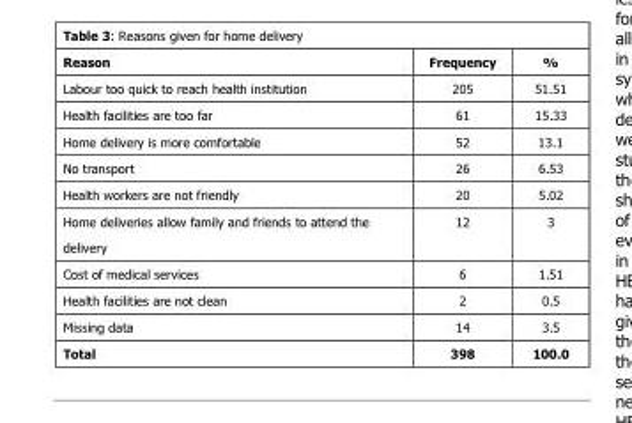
<table><thead><tr><td>Reason</td><td>Frequency</td><td>%</td></tr></thead><tbody><tr><td>Labour too quick to reach health institution</td><td>205</td><td>51.51</td></tr><tr><td>Health facilities are too far</td><td>61</td><td>15.33</td></tr><tr><td>Home delivery is more comfortable</td><td>52</td><td>13.1</td></tr><tr><td>No transport</td><td>26</td><td>6.53</td></tr><tr><td>Health workers are not friendly</td><td>20</td><td>5.02</td></tr><tr><td>Home deliveries allow family and friends to attend the delivery</td><td>12</td><td>3</td></tr><tr><td>Cost of medical services</td><td>6</td><td>1.51</td></tr><tr><td>Health facilities are not clean</td><td>2</td><td>0.5</td></tr><tr><td>Missing data</td><td>14</td><td>3.5</td></tr><tr><td>Total</td><td>398</td><td>100.0</td></tr></tbody></table>